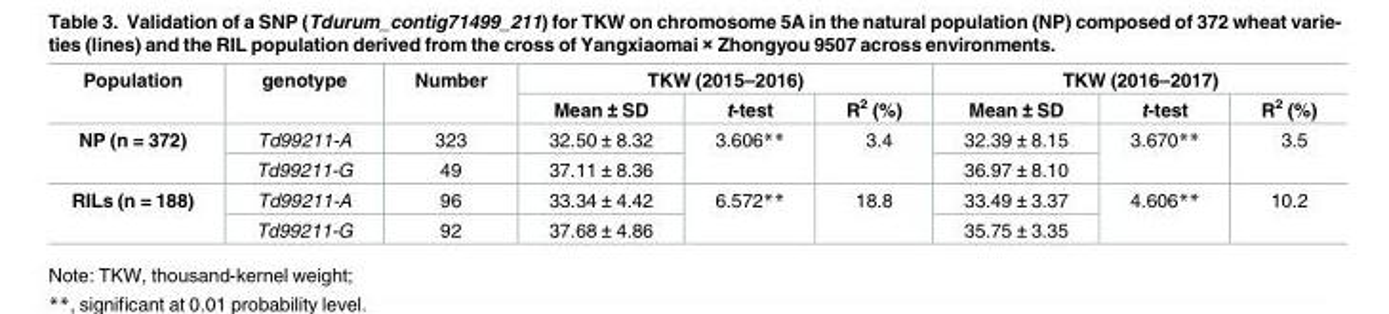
<table><thead><tr><td rowspan="2">Population</td><td rowspan="2">genotype</td><td rowspan="2">Number</td><td colspan="3">TKW (2015–2016)</td><td colspan="3">TKW (2016–2017)</td></tr><tr><td>Mean ± SD</td><td>t-test</td><td>R<sup>2</sup> (%)</td><td>Mean ± SD</td><td>t-test</td><td>R<sup>2</sup> (%)</td></tr></thead><tbody><tr><td rowspan="2">NP (n = 372)</td><td>Td99211-A</td><td>323</td><td>32.50 ± 8.32</td><td rowspan="2">3.606**</td><td rowspan="2">3.4</td><td>32.39 ± 8.15</td><td rowspan="2">3.670**</td><td rowspan="2">3.5</td></tr><tr><td>Td99211-G</td><td>49</td><td>37.11 ± 8.36</td><td>36.97 ± 8.10</td></tr><tr><td rowspan="2">RILs (n = 188)</td><td>Td99211-A</td><td>96</td><td>33.34 ± 4.42</td><td rowspan="2">6.572**</td><td rowspan="2">18.8</td><td>33.49 ± 3.37</td><td rowspan="2">4.606**</td><td rowspan="2">10.2</td></tr><tr><td>Td99211-G</td><td>92</td><td>37.68 ± 4.86</td><td>35.75 ± 3.35</td></tr></tbody></table>